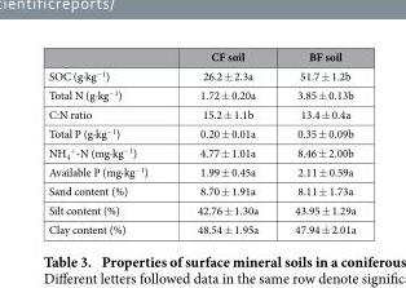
<table><thead><tr><td></td><td>CF soil</td><td>BF soil</td></tr></thead><tbody><tr><td>SOC (g·kg<sup>−1</sup>)</td><td>26.2 ± 2.3a</td><td>51.7 ± 1.2b</td></tr><tr><td>Total N (g·kg<sup>−1</sup>)</td><td>1.72 ± 0.20a</td><td>3.85 ± 0.13b</td></tr><tr><td>C:N ratio</td><td>15.2 ± 1.1b</td><td>13.4 ± 0.4a</td></tr><tr><td>Total P (g·kg<sup>−1</sup>)</td><td>0.20 ± 0.01a</td><td>0.35 ± 0.09b</td></tr><tr><td>NH<sub>4</sub> <sup>+</sup>-N (mg·kg<sup>−1</sup>)</td><td>4.77 ± 1.01a</td><td>8.46 ± 2.00b</td></tr><tr><td>Available P (mg·kg<sup>−1</sup>)</td><td>1.99 ± 0.45a</td><td>2.11 ± 0.59a</td></tr><tr><td>Sand content (%)</td><td>8.70 ± 1.91a</td><td>8.11 ± 1.73a</td></tr><tr><td>Silt content (%)</td><td>42.76 ± 1.30a</td><td>43.95 ± 1.29a</td></tr><tr><td>Clay content (%)</td><td>48.54 ± 1.95a</td><td>47.94 ± 2.01a</td></tr></tbody></table>